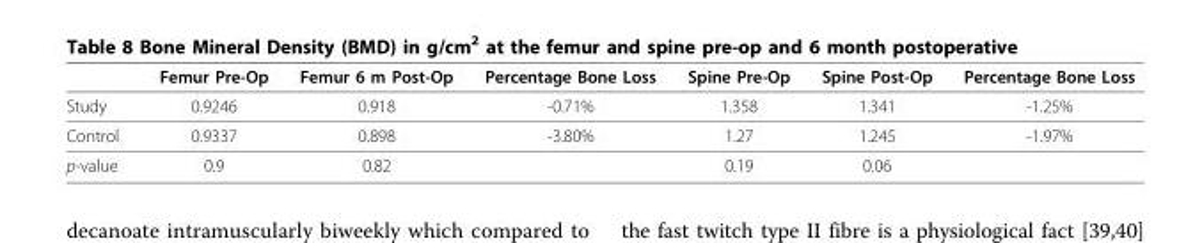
<table><thead><tr><td></td><td>Femur Pre-Op</td><td>Femur 6 m Post-Op</td><td>Percentage Bone Loss</td><td>Spine Pre-Op</td><td>Spine Post-Op</td><td>Percentage Bone Loss</td></tr></thead><tbody><tr><td>Study</td><td>0.9246</td><td>0.918</td><td>-0.71%</td><td>1.358</td><td>1.341</td><td>-1.25%</td></tr><tr><td>Control</td><td>0.9337</td><td>0.898</td><td>-3.80%</td><td>1.27</td><td>1.245</td><td>-1.97%</td></tr><tr><td>p-value</td><td>0.9</td><td>0.82</td><td></td><td>0.19</td><td>0.06</td><td></td></tr></tbody></table>